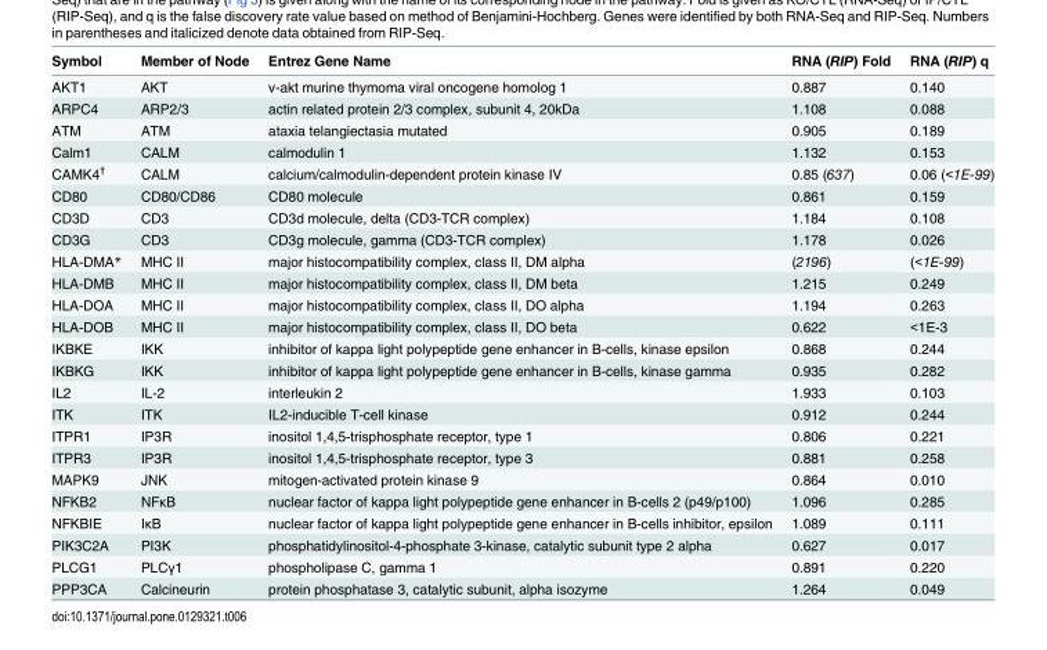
<table><thead><tr><td>Symbol</td><td>Member of Node</td><td>Entrez Gene Name</td><td>RNA (RIP) Fold</td><td>RNA (RIP) q</td></tr></thead><tbody><tr><td>AKT1</td><td>AKT</td><td>v-akt murine thymoma viral oncogene homolog 1</td><td>0.887</td><td>0.140</td></tr><tr><td>ARPC4</td><td>ARP2/3</td><td>actin related protein 2/3 complex, subunit 4, 20kDa</td><td>1.108</td><td>0.088</td></tr><tr><td>ATM</td><td>ATM</td><td>ataxia telangiectasia mutated</td><td>0.905</td><td>0.189</td></tr><tr><td>Calm1</td><td>CALM</td><td>calmodulin 1</td><td>1.132</td><td>0.153</td></tr><tr><td>CAMK4<sup>†</sup></td><td>CALM</td><td>calcium/calmodulin-dependent protein kinase IV</td><td>0.85 (637)</td><td>0.06 (&lt;1E-99)</td></tr><tr><td>CD80</td><td>CD80/CD86</td><td>CD80 molecule</td><td>0.861</td><td>0.159</td></tr><tr><td>CD3D</td><td>CD3</td><td>CD3d molecule, delta (CD3-TCR complex)</td><td>1.184</td><td>0.108</td></tr><tr><td>CD3G</td><td>CD3</td><td>CD3g molecule, gamma (CD3-TCR complex)</td><td>1.178</td><td>0.026</td></tr><tr><td>HLA-DMA*</td><td>MHC II</td><td>major histocompatibility complex, class II, DM alpha</td><td>(2196)</td><td>(&lt;1E-99)</td></tr><tr><td>HLA-DMB</td><td>MHC II</td><td>major histocompatibility complex, class II, DM beta</td><td>1.215</td><td>0.249</td></tr><tr><td>HLA-DOA</td><td>MHC II</td><td>major histocompatibility complex, class II, DO alpha</td><td>1.194</td><td>0.263</td></tr><tr><td>HLA-DOB</td><td>MHC II</td><td>major histocompatibility complex, class II, DO beta</td><td>0.622</td><td>&lt;1E-3</td></tr><tr><td>IKBKE</td><td>IKK</td><td>inhibitor of kappa light polypeptide gene enhancer in B-cells, kinase epsilon</td><td>0.868</td><td>0.244</td></tr><tr><td>IKBKG</td><td>IKK</td><td>inhibitor of kappa light polypeptide gene enhancer in B-cells, kinase gamma</td><td>0.935</td><td>0.282</td></tr><tr><td>IL2</td><td>IL-2</td><td>interleukin 2</td><td>1.933</td><td>0.103</td></tr><tr><td>ITK</td><td>ITK</td><td>IL2-inducible T-cell kinase</td><td>0.912</td><td>0.244</td></tr><tr><td>ITPR1</td><td>IP3R</td><td>inositol 1,4,5-trisphosphate receptor, type 1</td><td>0.806</td><td>0.221</td></tr><tr><td>ITPR3</td><td>IP3R</td><td>inositol 1,4,5-trisphosphate receptor, type 3</td><td>0.881</td><td>0.258</td></tr><tr><td>MAPK9</td><td>JNK</td><td>mitogen-activated protein kinase 9</td><td>0.864</td><td>0.010</td></tr><tr><td>NFKB2</td><td>NFκB</td><td>nuclear factor of kappa light polypeptide gene enhancer in B-cells 2 (p49/p100)</td><td>1.096</td><td>0.285</td></tr><tr><td>NFKBIE</td><td>IκB</td><td>nuclear factor of kappa light polypeptide gene enhancer in B-cells inhibitor, epsilon</td><td>1.089</td><td>0.111</td></tr><tr><td>PIK3C2A</td><td>PI3K</td><td>phosphatidylinositol-4-phosphate 3-kinase, catalytic subunit type 2 alpha</td><td>0.627</td><td>0.017</td></tr><tr><td>PLCG1</td><td>PLCγ1</td><td>phospholipase C, gamma 1</td><td>0.891</td><td>0.220</td></tr><tr><td>PPP3CA</td><td>Calcineurin</td><td>protein phosphatase 3, catalytic subunit, alpha isozyme</td><td>1.264</td><td>0.049</td></tr></tbody></table>